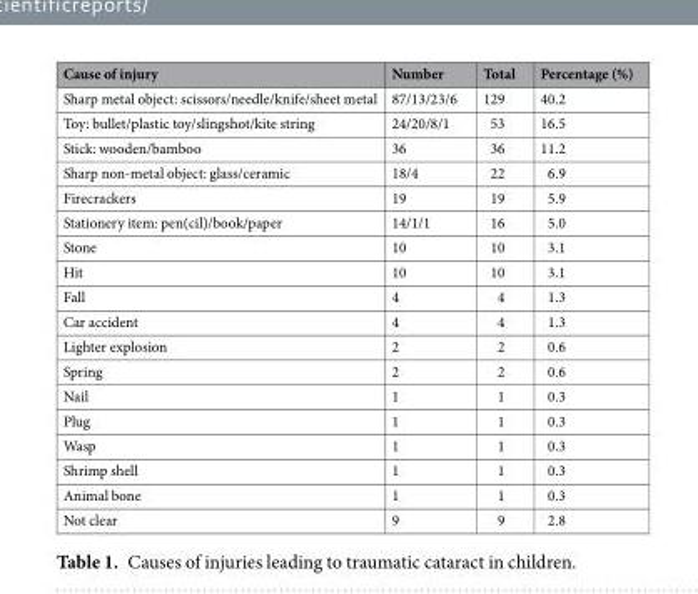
<table><thead><tr><td>Cause of injury</td><td>Number</td><td>Total</td><td>Percentage (%)</td></tr></thead><tbody><tr><td>Sharp metal object: scissors/needle/knife/sheet metal</td><td>87/13/23/6</td><td>129</td><td>40.2</td></tr><tr><td>Toy: bullet/plastic toy/slingshot/kite string</td><td>24/20/8/1</td><td>53</td><td>16.5</td></tr><tr><td>Stick: wooden/bamboo</td><td>36</td><td>36</td><td>11.2</td></tr><tr><td>Sharp non-metal object: glass/ceramic</td><td>18/4</td><td>22</td><td>6.9</td></tr><tr><td>Firecrackers</td><td>19</td><td>19</td><td>5.9</td></tr><tr><td>Stationery item: pen(cil)/book/paper</td><td>14/1/1</td><td>16</td><td>5.0</td></tr><tr><td>Stone</td><td>10</td><td>10</td><td>3.1</td></tr><tr><td>Hit</td><td>10</td><td>10</td><td>3.1</td></tr><tr><td>Fall</td><td>4</td><td>4</td><td>1.3</td></tr><tr><td>Car accident</td><td>4</td><td>4</td><td>1.3</td></tr><tr><td>Lighter explosion</td><td>2</td><td>2</td><td>0.6</td></tr><tr><td>Spring</td><td>2</td><td>2</td><td>0.6</td></tr><tr><td>Nail</td><td>1</td><td>1</td><td>0.3</td></tr><tr><td>Plug</td><td>1</td><td>1</td><td>0.3</td></tr><tr><td>Wasp</td><td>1</td><td>1</td><td>0.3</td></tr><tr><td>Shrimp shell</td><td>1</td><td>1</td><td>0.3</td></tr><tr><td>Animal bone</td><td>1</td><td>1</td><td>0.3</td></tr><tr><td>Not clear</td><td>9</td><td>9</td><td>2.8</td></tr></tbody></table>